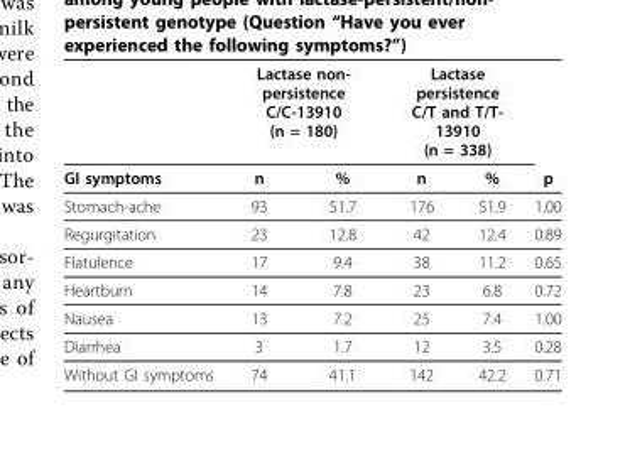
<table><thead><tr><td rowspan="2">GI symptoms</td><td colspan="2">Lactase non- persistence C/C-13910 (n = 180)</td><td colspan="2">Lactase persistence C/T and T/T- 13910 (n = 338)</td><td rowspan="2">p</td></tr><tr><td>n</td><td>%</td><td>n</td><td>%</td></tr></thead><tbody><tr><td>Stomach-ache</td><td>93</td><td>51.7</td><td>176</td><td>51.9</td><td>1.00</td></tr><tr><td>Regurgitation</td><td>23</td><td>12.8</td><td>42</td><td>12.4</td><td>0.89</td></tr><tr><td>Flatulence</td><td>17</td><td>9.4</td><td>38</td><td>11.2</td><td>0.65</td></tr><tr><td>Heartburn</td><td>14</td><td>7.8</td><td>23</td><td>6.8</td><td>0.72</td></tr><tr><td>Nausea</td><td>13</td><td>7.2</td><td>25</td><td>7.4</td><td>1.00</td></tr><tr><td>Diarrhea</td><td>3</td><td>1.7</td><td>12</td><td>3.5</td><td>0.28</td></tr><tr><td>Without GI symptoms</td><td>74</td><td>41.1</td><td>142</td><td>42.2</td><td>0.71</td></tr></tbody></table>